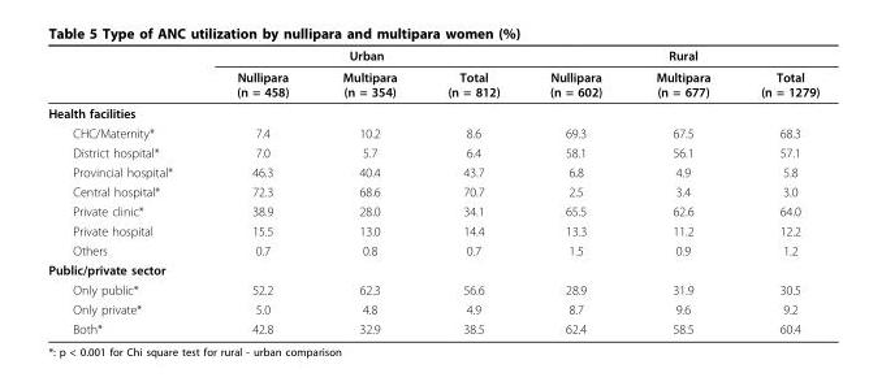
<table><thead><tr><td rowspan="2"></td><td colspan="3">Urban</td><td colspan="3">Rural</td></tr><tr><td>Nullipara (n = 458)</td><td>Multipara (n = 354)</td><td>Total (n = 812)</td><td>Nullipara (n = 602)</td><td>Multipara (n = 677)</td><td>Total (n = 1279)</td></tr></thead><tbody><tr><td colspan="7">Health facilities</td></tr><tr><td>CHC/Maternity*</td><td>7.4</td><td>10.2</td><td>8.6</td><td>69.3</td><td>67.5</td><td>68.3</td></tr><tr><td>District hospital*</td><td>7.0</td><td>5.7</td><td>6.4</td><td>58.1</td><td>56.1</td><td>57.1</td></tr><tr><td>Provincial hospital*</td><td>46.3</td><td>40.4</td><td>43.7</td><td>6.8</td><td>4.9</td><td>5.8</td></tr><tr><td>Central hospital*</td><td>72.3</td><td>68.6</td><td>70.7</td><td>2.5</td><td>3.4</td><td>3.0</td></tr><tr><td>Private clinic*</td><td>38.9</td><td>28.0</td><td>34.1</td><td>65.5</td><td>62.6</td><td>64.0</td></tr><tr><td>Private hospital</td><td>15.5</td><td>13.0</td><td>14.4</td><td>13.3</td><td>11.2</td><td>12.2</td></tr><tr><td>Others</td><td>0.7</td><td>0.8</td><td>0.7</td><td>1.5</td><td>0.9</td><td>1.2</td></tr><tr><td colspan="7">Public/private sector</td></tr><tr><td>Only public*</td><td>52.2</td><td>62.3</td><td>56.6</td><td>28.9</td><td>31.9</td><td>30.5</td></tr><tr><td>Only private*</td><td>5.0</td><td>4.8</td><td>4.9</td><td>8.7</td><td>9.6</td><td>9.2</td></tr><tr><td>Both*</td><td>42.8</td><td>32.9</td><td>38.5</td><td>62.4</td><td>58.5</td><td>60.4</td></tr></tbody></table>